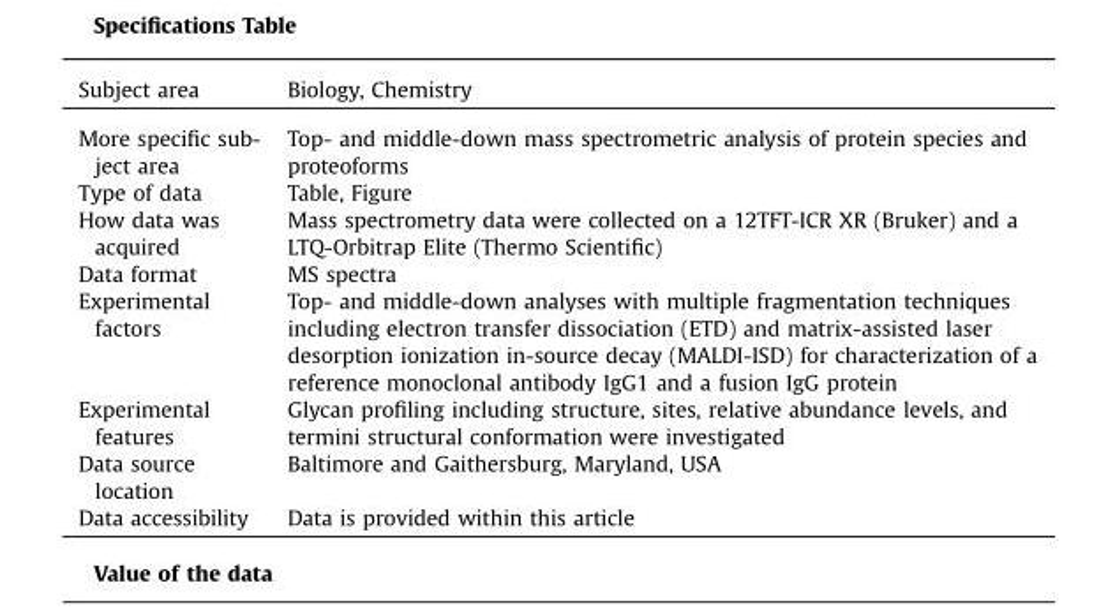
<table><thead><tr><td>Subject area</td><td>Biology, Chemistry</td></tr></thead><tbody><tr><td>More specific sub- ject area</td><td>Top- and middle-down mass spectrometric analysis of protein species and proteoforms</td></tr><tr><td>Type of data</td><td>Table, Figure</td></tr><tr><td>How data was acquired</td><td>Mass spectrometry data were collected on a 12TFT-ICR XR (Bruker) and a LTQ-Orbitrap Elite (Thermo Scientific)</td></tr><tr><td>Data format</td><td>MS spectra</td></tr><tr><td>Experimental factors</td><td>Top- and middle-down analyses with multiple fragmentation techniques including electron transfer dissociation (ETD) and matrix-assisted laser desorption ionization in-source decay (MALDI-ISD) for characterization of a reference monoclonal antibody IgG1 and a fusion IgG protein</td></tr><tr><td>Experimental features</td><td>Glycan profiling including structure, sites, relative abundance levels, and termini structural conformation were investigated</td></tr><tr><td>Data source location</td><td>Baltimore and Gaithersburg, Maryland, USA</td></tr><tr><td>Data accessibility</td><td>Data is provided within this article</td></tr></tbody></table>